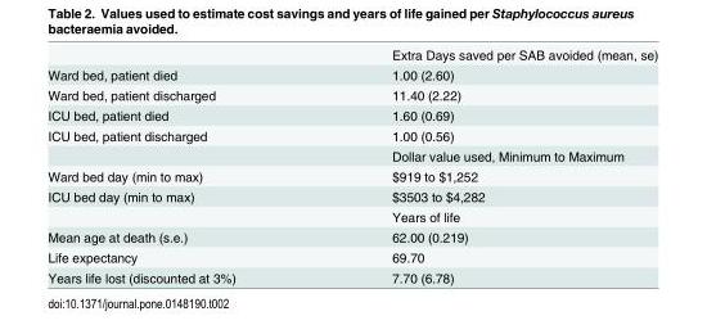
<table><thead><tr><td></td><td>Extra Days saved per SAB avoided (mean, se)</td></tr></thead><tbody><tr><td>Ward bed, patient died</td><td>1.00 (2.60)</td></tr><tr><td>Ward bed, patient discharged</td><td>11.40 (2.22)</td></tr><tr><td>ICU bed, patient died</td><td>1.60 (0.69)</td></tr><tr><td rowspan="2">ICU bed, patient discharged</td><td>1.00 (0.56)</td></tr><tr><td>Dollar value used, Minimum to Maximum</td></tr><tr><td>Ward bed day (min to max)</td><td>$919 to $1,252</td></tr><tr><td rowspan="2">ICU bed day (min to max)</td><td>$3503 to $4,282</td></tr><tr><td>Years of life</td></tr><tr><td>Mean age at death (s.e.)</td><td>62.00 (0.219)</td></tr><tr><td>Life expectancy</td><td>69.70</td></tr><tr><td>Years life lost (discounted at 3%)</td><td>7.70 (6.78)</td></tr></tbody></table>